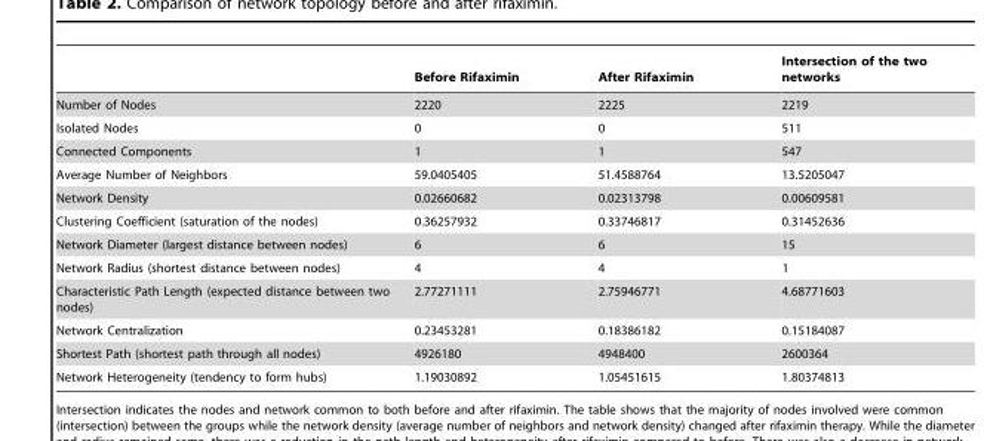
<table><thead><tr><td></td><td>Before Rifaximin</td><td>After Rifaximin</td><td>Intersection of the two networks</td></tr></thead><tbody><tr><td>Number of Nodes</td><td>2220</td><td>2225</td><td>2219</td></tr><tr><td>Isolated Nodes</td><td>0</td><td>0</td><td>511</td></tr><tr><td>Connected Components</td><td>1</td><td>1</td><td>547</td></tr><tr><td>Average Number of Neighbors</td><td>59.0405405</td><td>51.4588764</td><td>13.5205047</td></tr><tr><td>Network Density</td><td>0.02660682</td><td>0.02313798</td><td>0.00609581</td></tr><tr><td>Clustering Coefficient (saturation of the nodes)</td><td>0.36257932</td><td>0.33746817</td><td>0.31452636</td></tr><tr><td>Network Diameter (largest distance between nodes)</td><td>6</td><td>6</td><td>15</td></tr><tr><td>Network Radius (shortest distance between nodes)</td><td>4</td><td>4</td><td>1</td></tr><tr><td>Characteristic Path Length (expected distance between two nodes)</td><td>2.77271111</td><td>2.75946771</td><td>4.68771603</td></tr><tr><td>Network Centralization</td><td>0.23453281</td><td>0.18386182</td><td>0.15184087</td></tr><tr><td>Shortest Path (shortest path through all nodes)</td><td>4926180</td><td>4948400</td><td>2600364</td></tr><tr><td>Network Heterogeneity (tendency to form hubs)</td><td>1.19030892</td><td>1.05451615</td><td>1.80374813</td></tr></tbody></table>